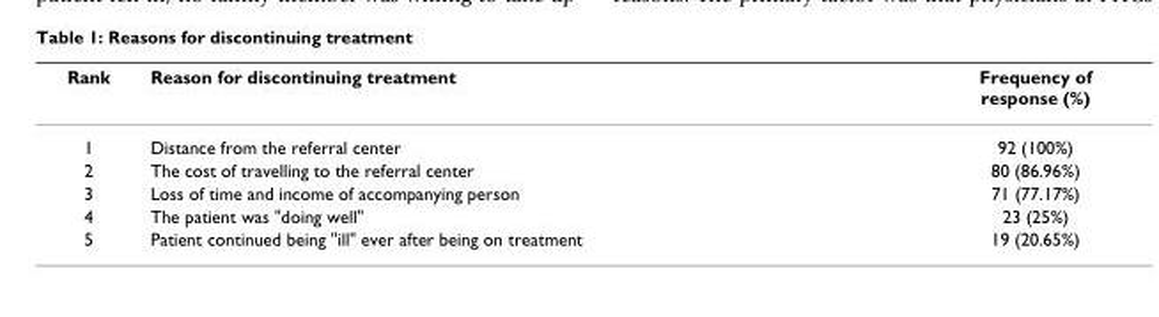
<table><thead><tr><td>Rank</td><td>Reason for discontinuing treatment</td><td>Frequency of response (%)</td></tr></thead><tbody><tr><td>1</td><td>Distance from the referral center</td><td>92 (100%)</td></tr><tr><td>2</td><td>The cost of travelling to the referral center</td><td>80 (86.96%)</td></tr><tr><td>3</td><td>Loss of time and income of accompanying person</td><td>71 (77.17%)</td></tr><tr><td>4</td><td>The patient was &quot;doing well&quot;</td><td>23 (25%)</td></tr><tr><td>5</td><td>Patient continued being &quot;ill&quot; ever after being on treatment</td><td>19 (20.65%)</td></tr></tbody></table>